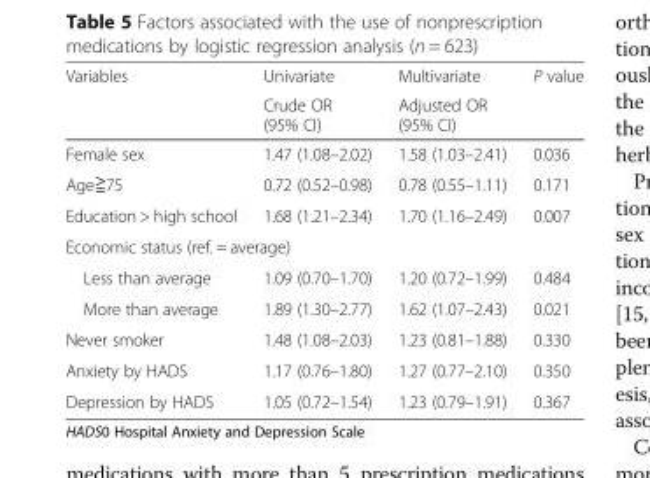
<table><thead><tr><td rowspan="2">Variables</td><td rowspan="2">Univariate Crude OR (95% CI)</td><td rowspan="2">Multivariate Adjusted OR (95% CI)</td><td rowspan="2">P value</td></tr><tr></tr></thead><tbody><tr><td>Female sex</td><td>1.47 (1.08–2.02)</td><td>1.58 (1.03–2.41)</td><td>0.036</td></tr><tr><td>Age≧75</td><td>0.72 (0.52–0.98)</td><td>0.78 (0.55–1.11)</td><td>0.171</td></tr><tr><td>Education &gt; high school</td><td>1.68 (1.21–2.34)</td><td>1.70 (1.16–2.49)</td><td>0.007</td></tr><tr><td colspan="4">Economic status (ref. = average)</td></tr><tr><td>Less than average</td><td>1.09 (0.70–1.70)</td><td>1.20 (0.72–1.99)</td><td>0.484</td></tr><tr><td>More than average</td><td>1.89 (1.30–2.77)</td><td>1.62 (1.07–2.43)</td><td>0.021</td></tr><tr><td>Never smoker</td><td>1.48 (1.08–2.03)</td><td>1.23 (0.81–1.88)</td><td>0.330</td></tr><tr><td>Anxiety by HADS</td><td>1.17 (0.76–1.80)</td><td>1.27 (0.77–2.10)</td><td>0.350</td></tr><tr><td>Depression by HADS</td><td>1.05 (0.72–1.54)</td><td>1.23 (0.79–1.91)</td><td>0.367</td></tr></tbody></table>